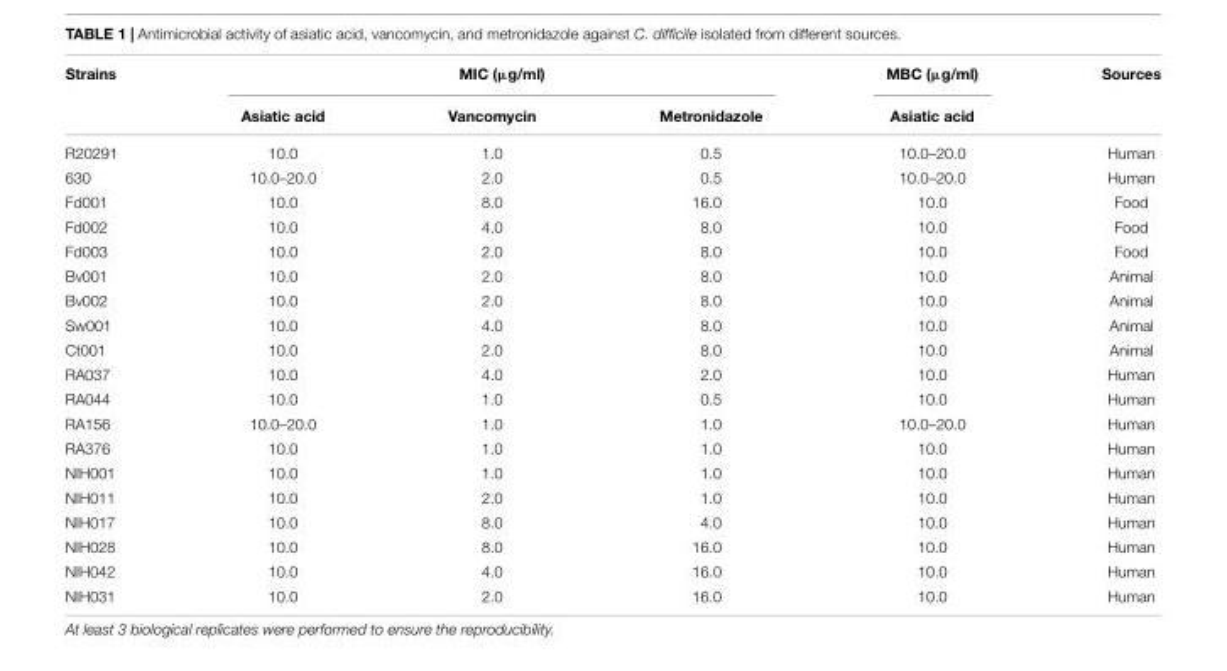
<table><thead><tr><td rowspan="2">Strains</td><td colspan="3">MIC (µg/ml)</td><td rowspan="2">MBC (µg/ml) Asiatic acid</td><td rowspan="2">Sources</td></tr><tr><td>Asiatic acid</td><td>Vancomycin</td><td>Metronidazole</td></tr></thead><tbody><tr><td>R20291</td><td>10.0</td><td>1.0</td><td>0.5</td><td>10.0–20.0</td><td>Human</td></tr><tr><td>630</td><td>10.0–20.0</td><td>2.0</td><td>0.5</td><td>10.0–20.0</td><td>Human</td></tr><tr><td>Fd001</td><td>10.0</td><td>8.0</td><td>16.0</td><td>10.0</td><td>Food</td></tr><tr><td>Fd002</td><td>10.0</td><td>4.0</td><td>8.0</td><td>10.0</td><td>Food</td></tr><tr><td>Fd003</td><td>10.0</td><td>2.0</td><td>8.0</td><td>10.0</td><td>Food</td></tr><tr><td>Bv001</td><td>10.0</td><td>2.0</td><td>8.0</td><td>10.0</td><td>Animal</td></tr><tr><td>Bv002</td><td>10.0</td><td>2.0</td><td>8.0</td><td>10.0</td><td>Animal</td></tr><tr><td>Sw001</td><td>10.0</td><td>4.0</td><td>8.0</td><td>10.0</td><td>Animal</td></tr><tr><td>Ct001</td><td>10.0</td><td>2.0</td><td>8.0</td><td>10.0</td><td>Animal</td></tr><tr><td>RA037</td><td>10.0</td><td>4.0</td><td>2.0</td><td>10.0</td><td>Human</td></tr><tr><td>RA044</td><td>10.0</td><td>1.0</td><td>0.5</td><td>10.0</td><td>Human</td></tr><tr><td>RA156</td><td>10.0–20.0</td><td>1.0</td><td>1.0</td><td>10.0–20.0</td><td>Human</td></tr><tr><td>RA376</td><td>10.0</td><td>1.0</td><td>1.0</td><td>10.0</td><td>Human</td></tr><tr><td>NIH001</td><td>10.0</td><td>1.0</td><td>1.0</td><td>10.0</td><td>Human</td></tr><tr><td>NIH011</td><td>10.0</td><td>2.0</td><td>1.0</td><td>10.0</td><td>Human</td></tr><tr><td>NIH017</td><td>10.0</td><td>8.0</td><td>4.0</td><td>10.0</td><td>Human</td></tr><tr><td>NIH028</td><td>10.0</td><td>8.0</td><td>16.0</td><td>10.0</td><td>Human</td></tr><tr><td>NIH042</td><td>10.0</td><td>4.0</td><td>16.0</td><td>10.0</td><td>Human</td></tr><tr><td>NIH031</td><td>10.0</td><td>2.0</td><td>16.0</td><td>10.0</td><td>Human</td></tr></tbody></table>